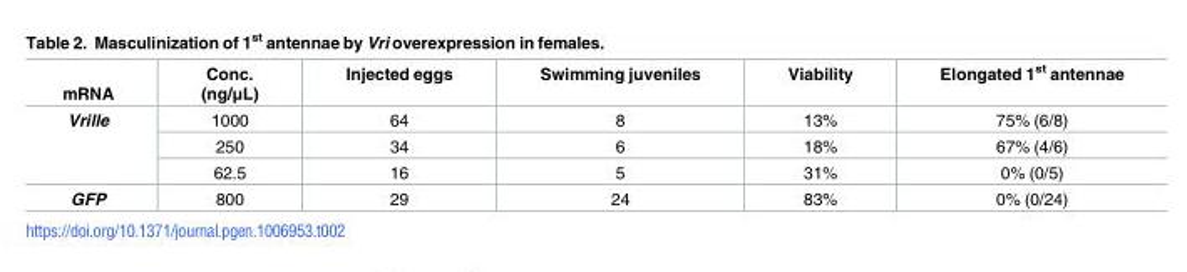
<table><thead><tr><td>mRNA</td><td>Conc. (ng/μL)</td><td>Injected eggs</td><td>Swimming juveniles</td><td>Viability</td><td>Elongated 1<sup>st</sup> antennae</td></tr></thead><tbody><tr><td rowspan="3">Vrille</td><td>1000</td><td>64</td><td>8</td><td>13%</td><td>75% (6/8)</td></tr><tr><td>250</td><td>34</td><td>6</td><td>18%</td><td>67% (4/6)</td></tr><tr><td>62.5</td><td>16</td><td>5</td><td>31%</td><td>0% (0/5)</td></tr><tr><td>GFP</td><td>800</td><td>29</td><td>24</td><td>83%</td><td>0% (0/24)</td></tr></tbody></table>